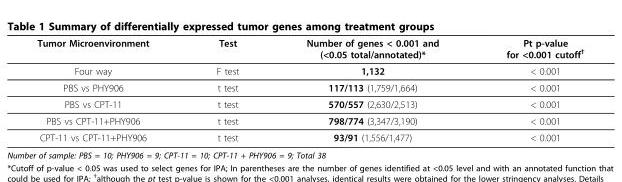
<table><thead><tr><td>Tumor Microenvironment</td><td>Test</td><td>Number of genes &lt; 0.001 and (&lt;0.05 total/annotated)*</td><td>Pt p-value for &lt;0.001 cutoff<sup>†</sup></td></tr></thead><tbody><tr><td>Four way</td><td>F test</td><td>1,132</td><td>&lt; 0.001</td></tr><tr><td>PBS vs PHY906</td><td>t test</td><td>117/113 (1,759/1,664)</td><td>&lt; 0.001</td></tr><tr><td>PBS vs CPT-11</td><td>t test</td><td>570/557 (2,630/2,513)</td><td>&lt; 0.001</td></tr><tr><td>PBS vs CPT-11+PHY906</td><td>t test</td><td>798/774 (3,347/3,190)</td><td>&lt; 0.001</td></tr><tr><td>CPT-11 vs CPT-11+PHY906</td><td>t test</td><td>93/91 (1,556/1,477)</td><td>&lt; 0.001</td></tr></tbody></table>